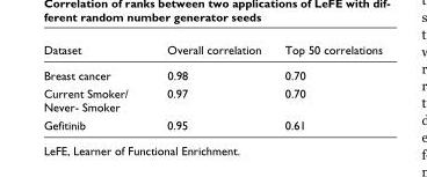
<table><thead><tr><td>Dataset</td><td>Overall correlation</td><td>Top 50 correlations</td></tr></thead><tbody><tr><td>Breast cancer</td><td>0.98</td><td>0.70</td></tr><tr><td>Current Smoker/ Never- Smoker</td><td>0.97</td><td>0.70</td></tr><tr><td>Gefitinib</td><td>0.95</td><td>0.61</td></tr></tbody></table>